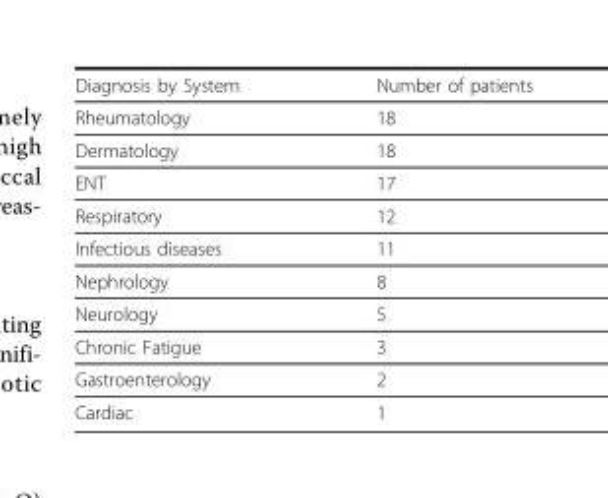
<table><thead><tr><td>Diagnosis by System</td><td>Number of patients</td></tr></thead><tbody><tr><td>Rheumatology</td><td>18</td></tr><tr><td>Dermatology</td><td>18</td></tr><tr><td>ENT</td><td>17</td></tr><tr><td>Respiratory</td><td>12</td></tr><tr><td>Infectious diseases</td><td>11</td></tr><tr><td>Nephrology</td><td>8</td></tr><tr><td>Neurology</td><td>5</td></tr><tr><td>Chronic Fatigue</td><td>3</td></tr><tr><td>Gastroenterology</td><td>2</td></tr><tr><td>Cardiac</td><td>1</td></tr></tbody></table>